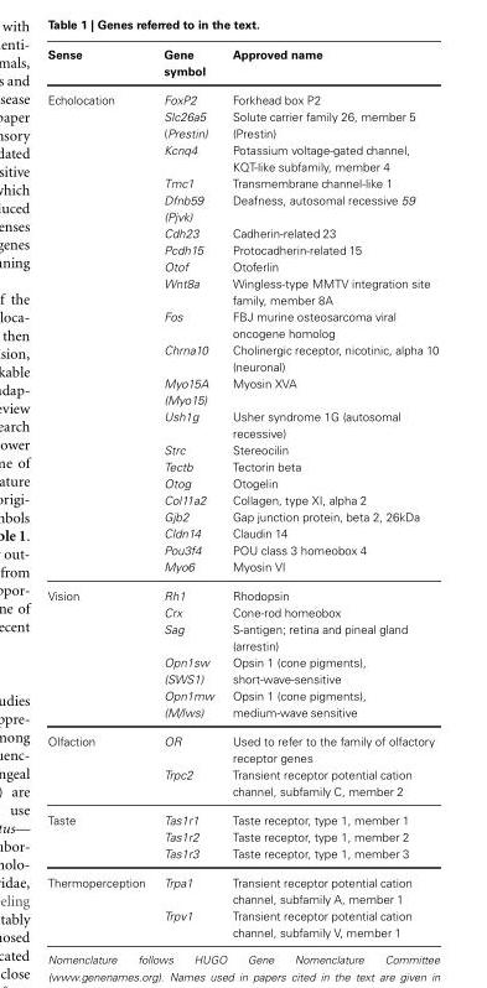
<table><thead><tr><td>Sense</td><td>Gene symbol</td><td>Approved name</td></tr></thead><tbody><tr><td rowspan="21">Echolocation</td><td>FoxP2</td><td>Forkhead box P2</td></tr><tr><td>Slc26a5 (Prestin)</td><td>Solute carrier family 26, member 5 (Prestin)</td></tr><tr><td>Kcnq4</td><td>Potassium voltage-gated channel, KQT-like subfamily, member 4</td></tr><tr><td>Tmc1</td><td>Transmembrane channel-like 1</td></tr><tr><td>Dfnb59 (Pjvk)</td><td>Deafness, autosomal recessive 59</td></tr><tr><td>Cdh23</td><td>Cadherin-related 23</td></tr><tr><td>Pcdh15</td><td>Protocadherin-related 15</td></tr><tr><td>Otof</td><td>Otoferlin</td></tr><tr><td>Wnt8a</td><td>Wingless-type MMTV integration site family, member 8A</td></tr><tr><td>Fos</td><td>FBJ murine osteosarcoma viral oncogene homolog</td></tr><tr><td>Chrna10</td><td>Cholinergic receptor, nicotinic, alpha 10 (neuronal)</td></tr><tr><td>Myo15A (Myo15)</td><td>Myosin XVA</td></tr><tr><td>Ush1g</td><td>Usher syndrome 1G (autosomal recessive)</td></tr><tr><td>Strc</td><td>Stereocilin</td></tr><tr><td>Tectb</td><td>Tectorin beta</td></tr><tr><td>Otog</td><td>Otogelin</td></tr><tr><td>Col11a2</td><td>Collagen, type XI, alpha 2</td></tr><tr><td>Gjb2</td><td>Gap junction protein, beta 2, 26kDa</td></tr><tr><td>Cldn14</td><td>Claudin 14</td></tr><tr><td>Pou3f4</td><td>POU class 3 homeobox 4</td></tr><tr><td>Myo6</td><td>Myosin VI</td></tr><tr><td rowspan="5">Vision</td><td>Rh1</td><td>Rhodopsin</td></tr><tr><td>Crx</td><td>Cone-rod homeobox</td></tr><tr><td>Sag</td><td>S-antigen; retina and pineal gland (arrestin)</td></tr><tr><td>Opn1sw (SWS1)</td><td>Opsin 1 (cone pigments), short-wave-sensitive</td></tr><tr><td>Opn1mw (M/lws)</td><td>Opsin 1 (cone pigments), medium-wave sensitive</td></tr><tr><td rowspan="2">Olfaction</td><td>OR</td><td>Used to refer to the family of olfactory receptor genes</td></tr><tr><td>Trpc2</td><td>Transient receptor potential cation channel, subfamily C, member 2</td></tr><tr><td rowspan="3">Taste</td><td>Tas1r1</td><td>Taste receptor, type 1, member 1</td></tr><tr><td>Tas1r2</td><td>Taste receptor, type 1, member 2</td></tr><tr><td>Tas1r3</td><td>Taste receptor, type 1, member 3</td></tr><tr><td rowspan="2">Thermoperception</td><td>Trpa1</td><td>Transient receptor potential cation channel, subfamily A, member 1</td></tr><tr><td>Trpv1</td><td>Transient receptor potential cation channel, subfamily V, member 1</td></tr></tbody></table>